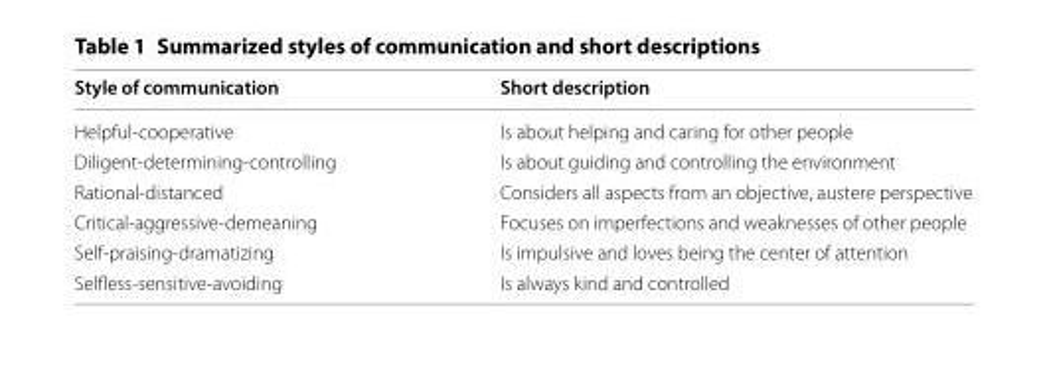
<table><thead><tr><td>Style of communication</td><td>Short description</td></tr></thead><tbody><tr><td>Helpful-cooperative</td><td>Is about helping and caring for other people</td></tr><tr><td>Diligent-determining-controlling</td><td>Is about guiding and controlling the environment</td></tr><tr><td>Rational-distanced</td><td>Considers all aspects from an objective, austere perspective</td></tr><tr><td>Critical-aggressive-demeaning</td><td>Focuses on imperfections and weaknesses of other people</td></tr><tr><td>Self-praising-dramatizing</td><td>Is impulsive and loves being the center of attention</td></tr><tr><td>Selfless-sensitive-avoiding</td><td>Is always kind and controlled</td></tr></tbody></table>